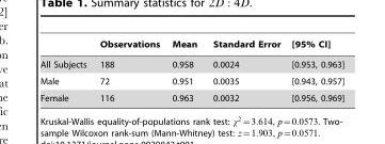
<table><thead><tr><td></td><td>Observations</td><td>Mean</td><td>Standard Error</td><td>[95% CI]</td></tr></thead><tbody><tr><td>All Subjects</td><td>188</td><td>0.958</td><td>0.0024</td><td>[0.953, 0.963]</td></tr><tr><td>Male</td><td>72</td><td>0.951</td><td>0.0035</td><td>[0.943, 0.957]</td></tr><tr><td>Female</td><td>116</td><td>0.963</td><td>0.0032</td><td>[0.956, 0.969]</td></tr></tbody></table>